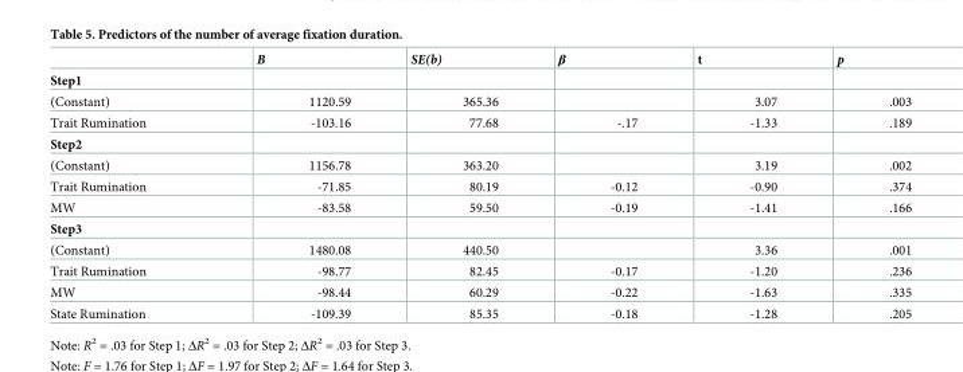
<table><thead><tr><td></td><td>B</td><td>SE(b)</td><td>β</td><td>t</td><td>p</td></tr></thead><tbody><tr><td colspan="6">Step1</td></tr><tr><td>(Constant)</td><td>1120.59</td><td>365.36</td><td></td><td>3.07</td><td>.003</td></tr><tr><td>Trait Rumination</td><td>-103.16</td><td>77.68</td><td>-.17</td><td>-1.33</td><td>.189</td></tr><tr><td colspan="6">Step2</td></tr><tr><td>(Constant)</td><td>1156.78</td><td>363.20</td><td></td><td>3.19</td><td>.002</td></tr><tr><td>Trait Rumination</td><td>-71.85</td><td>80.19</td><td>-0.12</td><td>-0.90</td><td>.374</td></tr><tr><td>MW</td><td>-83.58</td><td>59.50</td><td>-0.19</td><td>-1.41</td><td>.166</td></tr><tr><td colspan="6">Step3</td></tr><tr><td>(Constant)</td><td>1480.08</td><td>440.50</td><td></td><td>3.36</td><td>.001</td></tr><tr><td>Trait Rumination</td><td>-98.77</td><td>82.45</td><td>-0.17</td><td>-1.20</td><td>.236</td></tr><tr><td>MW</td><td>-98.44</td><td>60.29</td><td>-0.22</td><td>-1.63</td><td>.335</td></tr><tr><td>State Rumination</td><td>-109.39</td><td>85.35</td><td>-0.18</td><td>-1.28</td><td>.205</td></tr></tbody></table>